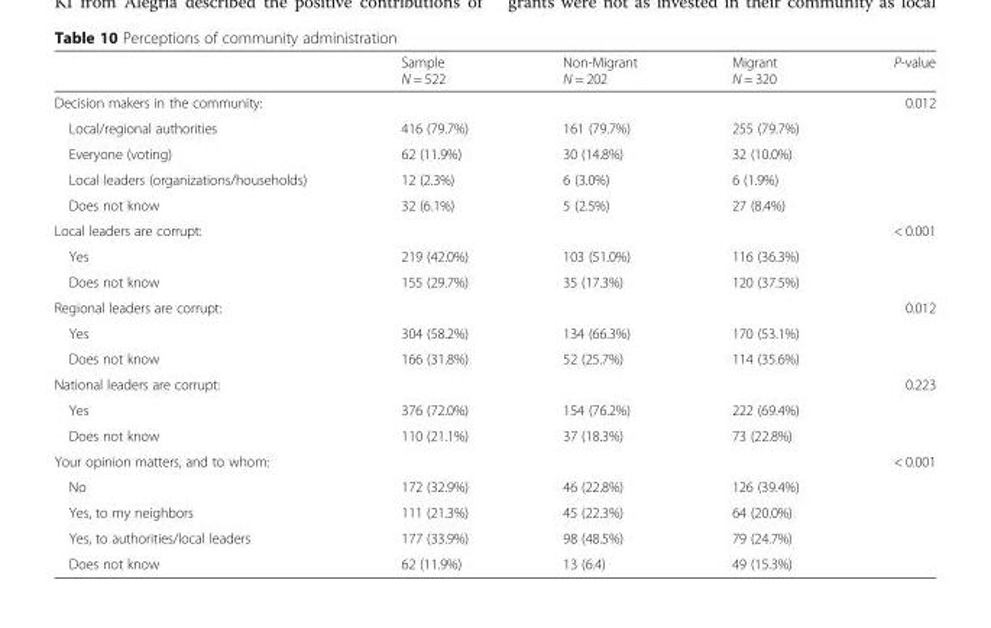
<table><thead><tr><td></td><td>Sample N = 522</td><td>Non-Migrant N = 202</td><td>Migrant N = 320</td><td>P-value</td></tr></thead><tbody><tr><td colspan="4">Decision makers in the community:</td><td>0.012</td></tr><tr><td>Local/regional authorities</td><td>416 (79.7%)</td><td>161 (79.7%)</td><td>255 (79.7%)</td><td></td></tr><tr><td>Everyone (voting)</td><td>62 (11.9%)</td><td>30 (14.8%)</td><td>32 (10.0%)</td><td></td></tr><tr><td>Local leaders (organizations/households)</td><td>12 (2.3%)</td><td>6 (3.0%)</td><td>6 (1.9%)</td><td></td></tr><tr><td>Does not know</td><td>32 (6.1%)</td><td>5 (2.5%)</td><td>27 (8.4%)</td><td></td></tr><tr><td colspan="4">Local leaders are corrupt:</td><td>&lt; 0.001</td></tr><tr><td>Yes</td><td>219 (42.0%)</td><td>103 (51.0%)</td><td>116 (36.3%)</td><td></td></tr><tr><td>Does not know</td><td>155 (29.7%)</td><td>35 (17.3%)</td><td>120 (37.5%)</td><td></td></tr><tr><td colspan="4">Regional leaders are corrupt:</td><td>0.012</td></tr><tr><td>Yes</td><td>304 (58.2%)</td><td>134 (66.3%)</td><td>170 (53.1%)</td><td></td></tr><tr><td>Does not know</td><td>166 (31.8%)</td><td>52 (25.7%)</td><td>114 (35.6%)</td><td></td></tr><tr><td colspan="4">National leaders are corrupt:</td><td>0.223</td></tr><tr><td>Yes</td><td>376 (72.0%)</td><td>154 (76.2%)</td><td>222 (69.4%)</td><td></td></tr><tr><td>Does not know</td><td>110 (21.1%)</td><td>37 (18.3%)</td><td>73 (22.8%)</td><td></td></tr><tr><td colspan="4">Your opinion matters, and to whom:</td><td>&lt; 0.001</td></tr><tr><td>No</td><td>172 (32.9%)</td><td>46 (22.8%)</td><td>126 (39.4%)</td><td></td></tr><tr><td>Yes, to my neighbors</td><td>111 (21.3%)</td><td>45 (22.3%)</td><td>64 (20.0%)</td><td></td></tr><tr><td>Yes, to authorities/local leaders</td><td>177 (33.9%)</td><td>98 (48.5%)</td><td>79 (24.7%)</td><td></td></tr><tr><td>Does not know</td><td>62 (11.9%)</td><td>13 (6.4)</td><td>49 (15.3%)</td><td></td></tr></tbody></table>